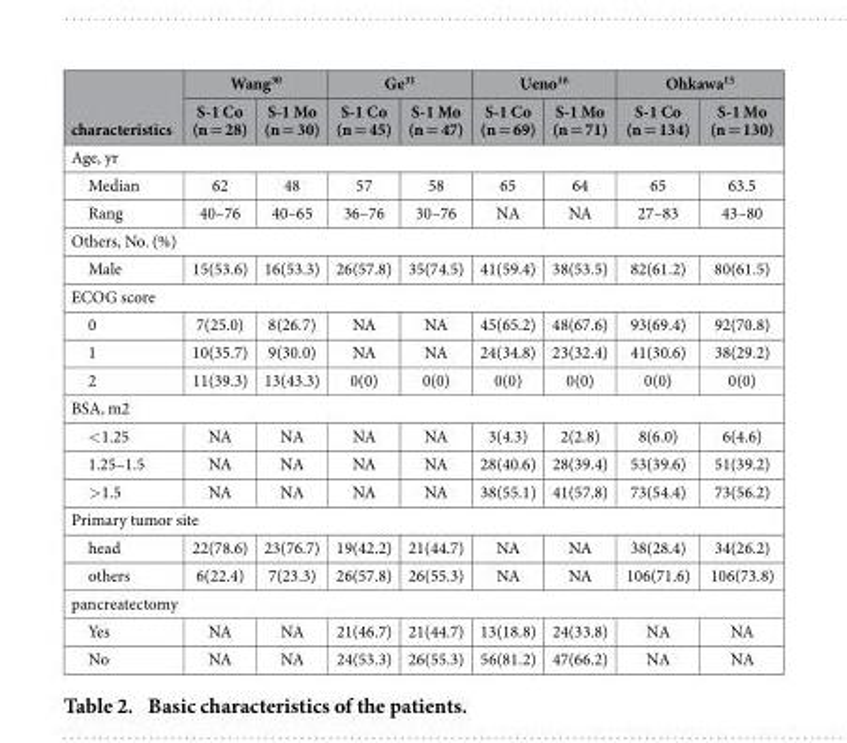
<table><thead><tr><td rowspan="2">characteristics</td><td colspan="2">Wang<sup>30</sup></td><td colspan="2">Ge<sup>31</sup></td><td colspan="2">Ueno<sup>16</sup></td><td colspan="2">Ohkawa<sup>15</sup></td></tr><tr><td>S-1 Co (n = 28)</td><td>S-1 Mo (n = 30)</td><td>S-1 Co (n = 45)</td><td>S-1 Mo (n = 47)</td><td>S-1 Co (n = 69)</td><td>S-1 Mo (n = 71)</td><td>S-1 Co (n = 134)</td><td>S-1 Mo (n = 130)</td></tr></thead><tbody><tr><td colspan="9">Age, yr</td></tr><tr><td>Median</td><td>62</td><td>48</td><td>57</td><td>58</td><td>65</td><td>64</td><td>65</td><td>63.5</td></tr><tr><td>Rang</td><td>40–76</td><td>40–65</td><td>36–76</td><td>30–76</td><td>NA</td><td>NA</td><td>27–83</td><td>43–80</td></tr><tr><td colspan="9">Others, No. (%)</td></tr><tr><td>Male</td><td>15(53.6)</td><td>16(53.3)</td><td>26(57.8)</td><td>35(74.5)</td><td>41(59.4)</td><td>38(53.5)</td><td>82(61.2)</td><td>80(61.5)</td></tr><tr><td colspan="9">ECOG score</td></tr><tr><td>0</td><td>7(25.0)</td><td>8(26.7)</td><td>NA</td><td>NA</td><td>45(65.2)</td><td>48(67.6)</td><td>93(69.4)</td><td>92(70.8)</td></tr><tr><td>1</td><td>10(35.7)</td><td>9(30.0)</td><td>NA</td><td>NA</td><td>24(34.8)</td><td>23(32.4)</td><td>41(30.6)</td><td>38(29.2)</td></tr><tr><td>2</td><td>11(39.3)</td><td>13(43.3)</td><td>0(0)</td><td>0(0)</td><td>0(0)</td><td>0(0)</td><td>0(0)</td><td>0(0)</td></tr><tr><td colspan="9">BSA, m2</td></tr><tr><td>&lt; 1.25</td><td>NA</td><td>NA</td><td>NA</td><td>NA</td><td>3(4.3)</td><td>2(2.8)</td><td>8(6.0)</td><td>6(4.6)</td></tr><tr><td>1.25–1.5</td><td>NA</td><td>NA</td><td>NA</td><td>NA</td><td>28(40.6)</td><td>28(39.4)</td><td>53(39.6)</td><td>51(39.2)</td></tr><tr><td>&gt; 1.5</td><td>NA</td><td>NA</td><td>NA</td><td>NA</td><td>38(55.1)</td><td>41(57.8)</td><td>73(54.4)</td><td>73(56.2)</td></tr><tr><td colspan="9">Primary tumor site</td></tr><tr><td>head</td><td>22(78.6)</td><td>23(76.7)</td><td>19(42.2)</td><td>21(44.7)</td><td>NA</td><td>NA</td><td>38(28.4)</td><td>34(26.2)</td></tr><tr><td>others</td><td>6(22.4)</td><td>7(23.3)</td><td>26(57.8)</td><td>26(55.3)</td><td>NA</td><td>NA</td><td>106(71.6)</td><td>106(73.8)</td></tr><tr><td colspan="9">pancreatectomy</td></tr><tr><td>Yes</td><td>NA</td><td>NA</td><td>21(46.7)</td><td>21(44.7)</td><td>13(18.8)</td><td>24(33.8)</td><td>NA</td><td>NA</td></tr><tr><td>No</td><td>NA</td><td>NA</td><td>24(53.3)</td><td>26(55.3)</td><td>56(81.2)</td><td>47(66.2)</td><td>NA</td><td>NA</td></tr></tbody></table>